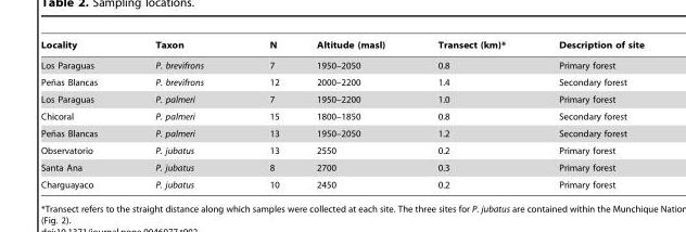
<table><thead><tr><td>Locality</td><td>Taxon</td><td>N</td><td>Altitude (masl)</td><td>Transect (km)*</td><td>Description of site</td></tr></thead><tbody><tr><td>Los Paraguas</td><td>P. brevifrons</td><td>7</td><td>1950–2050</td><td>0.8</td><td>Primary forest</td></tr><tr><td>Pen˜as Blancas</td><td>P. brevifrons</td><td>12</td><td>2000–2200</td><td>1.4</td><td>Secondary forest</td></tr><tr><td>Los Paraguas</td><td>P. palmeri</td><td>7</td><td>1950–2200</td><td>1.0</td><td>Primary forest</td></tr><tr><td>Chicoral</td><td>P. palmeri</td><td>15</td><td>1800–1850</td><td>0.8</td><td>Secondary forest</td></tr><tr><td>Pen˜as Blancas</td><td>P. palmeri</td><td>13</td><td>1950–2050</td><td>1.2</td><td>Secondary forest</td></tr><tr><td>Observatorio</td><td>P. jubatus</td><td>13</td><td>2550</td><td>0.2</td><td>Primary forest</td></tr><tr><td>Santa Ana</td><td>P. jubatus</td><td>8</td><td>2700</td><td>0.3</td><td>Primary forest</td></tr><tr><td>Charguayaco</td><td>P. jubatus</td><td>10</td><td>2450</td><td>0.2</td><td>Primary forest</td></tr></tbody></table>